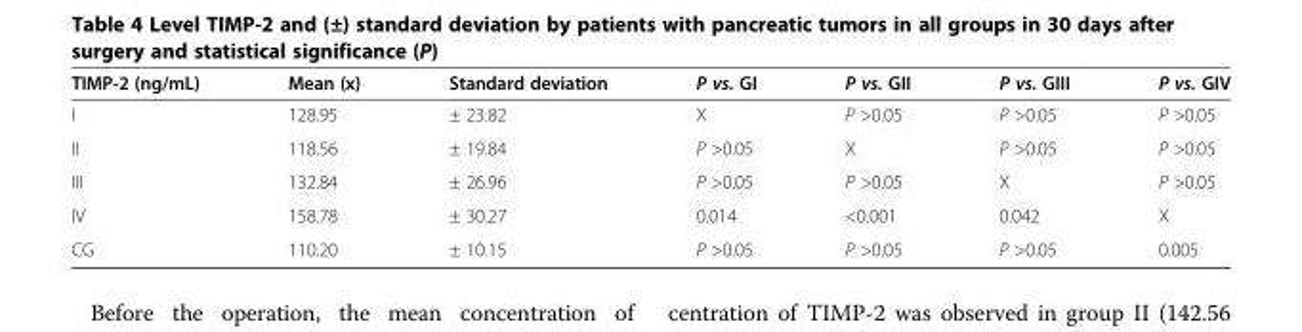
<table><thead><tr><td>TIMP-2 (ng/mL)</td><td>Mean (x)</td><td>Standard deviation</td><td>P vs. GI</td><td>P vs. GII</td><td>P vs. GIII</td><td>P vs. GIV</td></tr></thead><tbody><tr><td>I</td><td>128.95</td><td>± 23.82</td><td>X</td><td>P &gt;0.05</td><td>P &gt;0.05</td><td>P &gt;0.05</td></tr><tr><td>II</td><td>118.56</td><td>± 19.84</td><td>P &gt;0.05</td><td>X</td><td>P &gt;0.05</td><td>P &gt;0.05</td></tr><tr><td>III</td><td>132.84</td><td>± 26.96</td><td>P &gt;0.05</td><td>P &gt;0.05</td><td>X</td><td>P &gt;0.05</td></tr><tr><td>IV</td><td>158.78</td><td>± 30.27</td><td>0.014</td><td>&lt;0.001</td><td>0.042</td><td>X</td></tr><tr><td>CG</td><td>110.20</td><td>± 10.15</td><td>P &gt;0.05</td><td>P &gt;0.05</td><td>P &gt;0.05</td><td>0.005</td></tr></tbody></table>